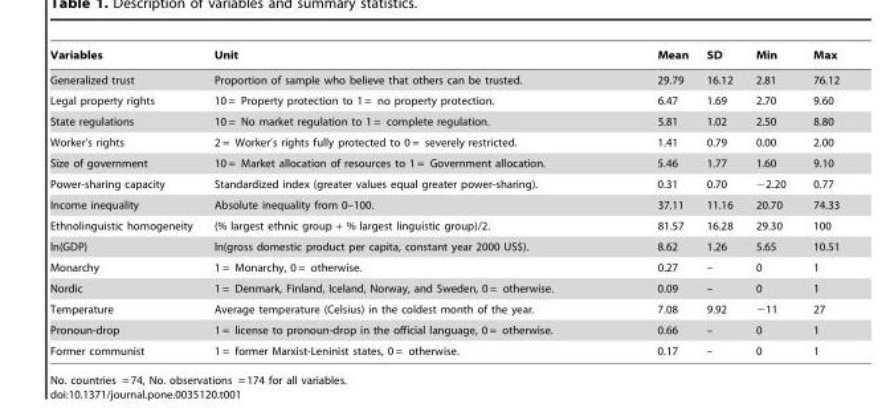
<table><thead><tr><td>Variables</td><td>Unit</td><td>Mean</td><td>SD</td><td>Min</td><td>Max</td></tr></thead><tbody><tr><td>Generalized trust</td><td>Proportion of sample who believe that others can be trusted.</td><td>29.79</td><td>16.12</td><td>2.81</td><td>76.12</td></tr><tr><td>Legal property rights</td><td>10 = Property protection to 1 = no property protection.</td><td>6.47</td><td>1.69</td><td>2.70</td><td>9.60</td></tr><tr><td>State regulations</td><td>10 = No market regulation to 1 = complete regulation.</td><td>5.81</td><td>1.02</td><td>2.50</td><td>8.80</td></tr><tr><td>Worker’s rights</td><td>2 = Worker’s rights fully protected to 0 = severely restricted.</td><td>1.41</td><td>0.79</td><td>0.00</td><td>2.00</td></tr><tr><td>Size of government</td><td>10 = Market allocation of resources to 1 = Government allocation.</td><td>5.46</td><td>1.77</td><td>1.60</td><td>9.10</td></tr><tr><td>Power-sharing capacity</td><td>Standardized index (greater values equal greater power-sharing).</td><td>0.31</td><td>0.70</td><td>−2.20</td><td>0.77</td></tr><tr><td>Income inequality</td><td>Absolute inequality from 0–100.</td><td>37.11</td><td>11.16</td><td>20.70</td><td>74.33</td></tr><tr><td>Ethnolinguistic homogeneity</td><td>(% largest ethnic group + % largest linguistic group)/2.</td><td>81.57</td><td>16.28</td><td>29.30</td><td>100</td></tr><tr><td>ln(GDP)</td><td>ln(gross domestic product per capita, constant year 2000 US$).</td><td>8.62</td><td>1.26</td><td>5.65</td><td>10.51</td></tr><tr><td>Monarchy</td><td>1 = Monarchy, 0 = otherwise.</td><td>0.27</td><td>–</td><td>0</td><td>1</td></tr><tr><td>Nordic</td><td>1 = Denmark, Finland, Iceland, Norway, and Sweden, 0 = otherwise.</td><td>0.09</td><td>–</td><td>0</td><td>1</td></tr><tr><td>Temperature</td><td>Average temperature (Celsius) in the coldest month of the year.</td><td>7.08</td><td>9.92</td><td>−11</td><td>27</td></tr><tr><td>Pronoun-drop</td><td>1 = license to pronoun-drop in the official language, 0 = otherwise.</td><td>0.66</td><td>–</td><td>0</td><td>1</td></tr><tr><td>Former communist</td><td>1 = former Marxist-Leninist states, 0 = otherwise.</td><td>0.17</td><td>–</td><td>0</td><td>1</td></tr></tbody></table>